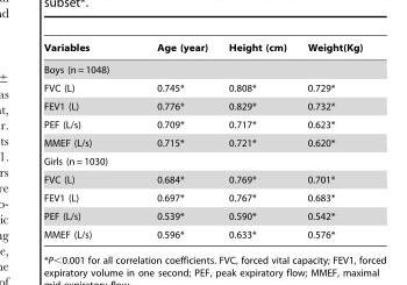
<table><thead><tr><td>Variables</td><td>Age (year)</td><td>Height (cm)</td><td>Weight(Kg)</td></tr></thead><tbody><tr><td colspan="4">Boys (n = 1048)</td></tr><tr><td>FVC (L)</td><td>0.745*</td><td>0.808*</td><td>0.729*</td></tr><tr><td>FEV1 (L)</td><td>0.776*</td><td>0.829*</td><td>0.732*</td></tr><tr><td>PEF (L/s)</td><td>0.709*</td><td>0.717*</td><td>0.623*</td></tr><tr><td>MMEF (L/s)</td><td>0.715*</td><td>0.721*</td><td>0.620*</td></tr><tr><td colspan="4">Girls (n = 1030)</td></tr><tr><td>FVC (L)</td><td>0.684*</td><td>0.769*</td><td>0.701*</td></tr><tr><td>FEV1 (L)</td><td>0.697*</td><td>0.767*</td><td>0.683*</td></tr><tr><td>PEF (L/s)</td><td>0.539*</td><td>0.590*</td><td>0.542*</td></tr><tr><td>MMEF (L/s)</td><td>0.596*</td><td>0.633*</td><td>0.576*</td></tr></tbody></table>